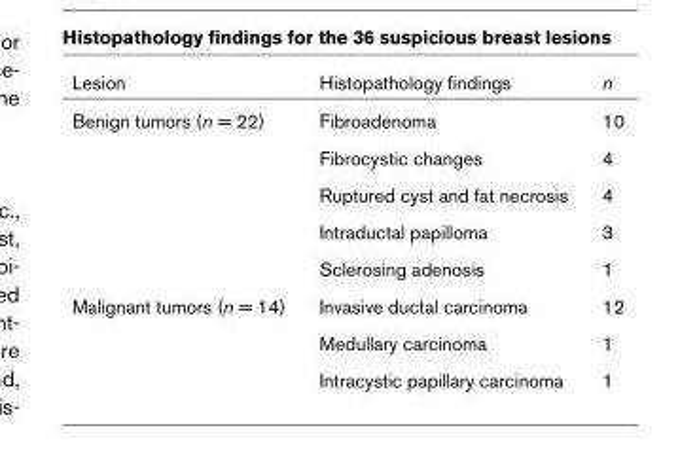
<table><thead><tr><td>Lesion</td><td>Histopathology findings</td><td>n</td></tr></thead><tbody><tr><td rowspan="5">Benign tumors (n = 22)</td><td>Fibroadenoma</td><td>10</td></tr><tr><td>Fibrocystic changes</td><td>4</td></tr><tr><td>Ruptured cyst and fat necrosis</td><td>4</td></tr><tr><td>Intraductal papilloma</td><td>3</td></tr><tr><td>Sclerosing adenosis</td><td>1</td></tr><tr><td rowspan="3">Malignant tumors (n = 14)</td><td>Invasive ductal carcinoma</td><td>12</td></tr><tr><td>Medullary carcinoma</td><td>1</td></tr><tr><td>Intracystic papillary carcinoma</td><td>1</td></tr></tbody></table>